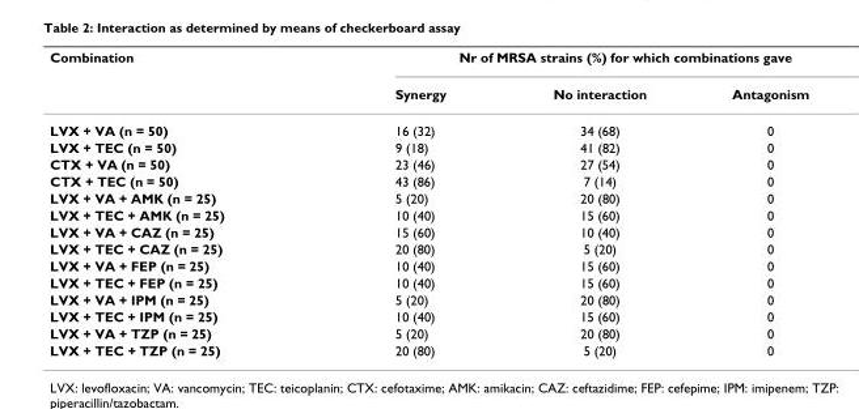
<table><thead><tr><td rowspan="2">Combination</td><td colspan="3">Nr of MRSA strains (%) for which combinations gave</td></tr><tr><td>Synergy</td><td>No interaction</td><td>Antagonism</td></tr></thead><tbody><tr><td>LVX + VA (n = 50)</td><td>16 (32)</td><td>34 (68)</td><td>0</td></tr><tr><td>LVX + TEC (n = 50)</td><td>9 (18)</td><td>41 (82)</td><td>0</td></tr><tr><td>CTX + VA (n = 50)</td><td>23 (46)</td><td>27 (54)</td><td>0</td></tr><tr><td>CTX + TEC (n = 50)</td><td>43 (86)</td><td>7 (14)</td><td>0</td></tr><tr><td>LVX + VA + AMK (n = 25)</td><td>5 (20)</td><td>20 (80)</td><td>0</td></tr><tr><td>LVX + TEC + AMK (n = 25)</td><td>10 (40)</td><td>15 (60)</td><td>0</td></tr><tr><td>LVX + VA + CAZ (n = 25)</td><td>15 (60)</td><td>10 (40)</td><td>0</td></tr><tr><td>LVX + TEC + CAZ (n = 25)</td><td>20 (80)</td><td>5 (20)</td><td>0</td></tr><tr><td>LVX + VA + FEP (n = 25)</td><td>10 (40)</td><td>15 (60)</td><td>0</td></tr><tr><td>LVX + TEC + FEP (n = 25)</td><td>10 (40)</td><td>15 (60)</td><td>0</td></tr><tr><td>LVX + VA + IPM (n = 25)</td><td>5 (20)</td><td>20 (80)</td><td>0</td></tr><tr><td>LVX + TEC + IPM (n = 25)</td><td>10 (40)</td><td>15 (60)</td><td>0</td></tr><tr><td>LVX + VA + TZP (n = 25)</td><td>5 (20)</td><td>20 (80)</td><td>0</td></tr><tr><td>LVX + TEC + TZP (n = 25)</td><td>20 (80)</td><td>5 (20)</td><td>0</td></tr></tbody></table>